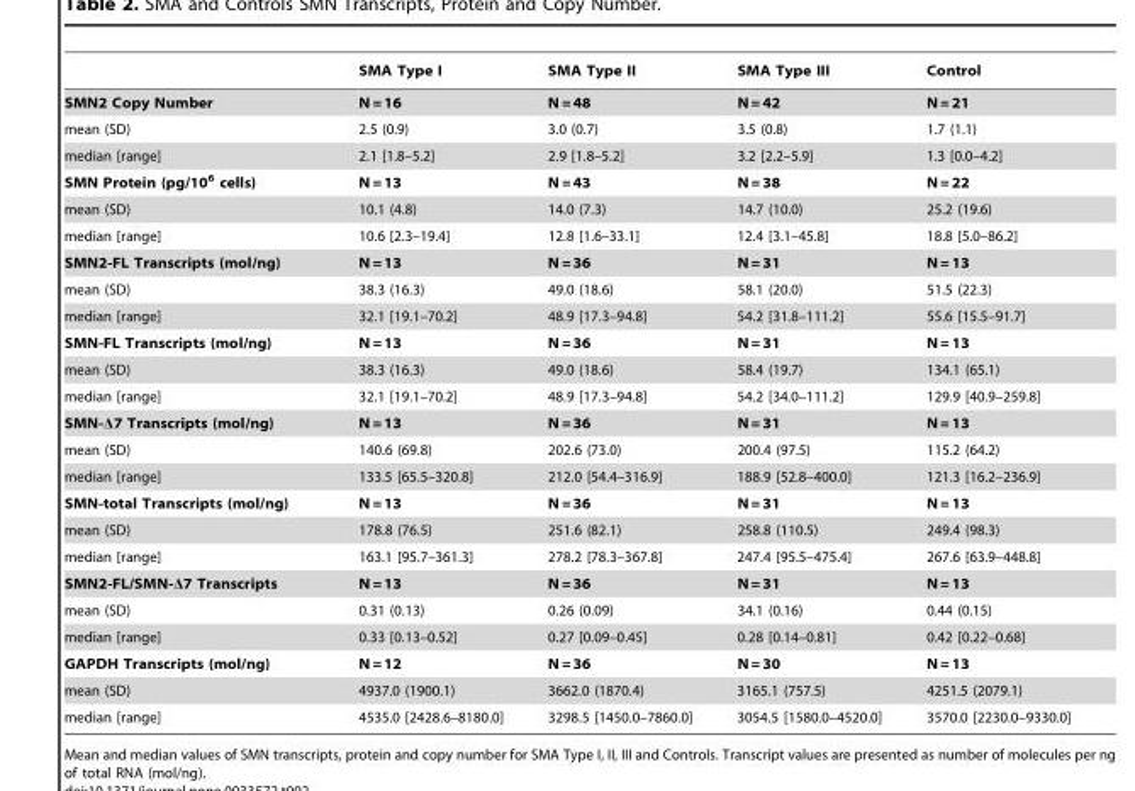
<table><thead><tr><td></td><td>SMA Type I</td><td>SMA Type II</td><td>SMA Type III</td><td>Control</td></tr></thead><tbody><tr><td>SMN2 Copy Number</td><td>N = 16</td><td>N = 48</td><td>N = 42</td><td>N = 21</td></tr><tr><td>mean (SD)</td><td>2.5 (0.9)</td><td>3.0 (0.7)</td><td>3.5 (0.8)</td><td>1.7 (1.1)</td></tr><tr><td>median [range]</td><td>2.1 [1.8–5.2]</td><td>2.9 [1.8–5.2]</td><td>3.2 [2.2–5.9]</td><td>1.3 [0.0–4.2]</td></tr><tr><td>SMN Protein (pg/10<sup>6</sup> cells)</td><td>N = 13</td><td>N = 43</td><td>N = 38</td><td>N = 22</td></tr><tr><td>mean (SD)</td><td>10.1 (4.8)</td><td>14.0 (7.3)</td><td>14.7 (10.0)</td><td>25.2 (19.6)</td></tr><tr><td>median [range]</td><td>10.6 [2.3–19.4]</td><td>12.8 [1.6–33.1]</td><td>12.4 [3.1–45.8]</td><td>18.8 [5.0–86.2]</td></tr><tr><td>SMN2-FL Transcripts (mol/ng)</td><td>N = 13</td><td>N = 36</td><td>N = 31</td><td>N = 13</td></tr><tr><td>mean (SD)</td><td>38.3 (16.3)</td><td>49.0 (18.6)</td><td>58.1 (20.0)</td><td>51.5 (22.3)</td></tr><tr><td>median [range]</td><td>32.1 [19.1–70.2]</td><td>48.9 [17.3–94.8]</td><td>54.2 [31.8–111.2]</td><td>55.6 [15.5–91.7]</td></tr><tr><td>SMN-FL Transcripts (mol/ng)</td><td>N = 13</td><td>N = 36</td><td>N = 31</td><td>N = 13</td></tr><tr><td>mean (SD)</td><td>38.3 (16.3)</td><td>49.0 (18.6)</td><td>58.4 (19.7)</td><td>134.1 (65.1)</td></tr><tr><td>median [range]</td><td>32.1 [19.1–70.2]</td><td>48.9 [17.3–94.8]</td><td>54.2 [34.0–111.2]</td><td>129.9 [40.9–259.8]</td></tr><tr><td>SMN-Δ7 Transcripts (mol/ng)</td><td>N = 13</td><td>N = 36</td><td>N = 31</td><td>N = 13</td></tr><tr><td>mean (SD)</td><td>140.6 (69.8)</td><td>202.6 (73.0)</td><td>200.4 (97.5)</td><td>115.2 (64.2)</td></tr><tr><td>median [range]</td><td>133.5 [65.5–320.8]</td><td>212.0 [54.4–316.9]</td><td>188.9 [52.8–400.0]</td><td>121.3 [16.2–236.9]</td></tr><tr><td>SMN-total Transcripts (mol/ng)</td><td>N = 13</td><td>N = 36</td><td>N = 31</td><td>N = 13</td></tr><tr><td>mean (SD)</td><td>178.8 (76.5)</td><td>251.6 (82.1)</td><td>258.8 (110.5)</td><td>249.4 (98.3)</td></tr><tr><td>median [range]</td><td>163.1 [95.7–361.3]</td><td>278.2 [78.3–367.8]</td><td>247.4 [95.5–475.4]</td><td>267.6 [63.9–448.8]</td></tr><tr><td>SMN2-FL/SMN-Δ7 Transcripts</td><td>N = 13</td><td>N = 36</td><td>N = 31</td><td>N = 13</td></tr><tr><td>mean (SD)</td><td>0.31 (0.13)</td><td>0.26 (0.09)</td><td>34.1 (0.16)</td><td>0.44 (0.15)</td></tr><tr><td>median [range]</td><td>0.33 [0.13–0.52]</td><td>0.27 [0.09–0.45]</td><td>0.28 [0.14–0.81]</td><td>0.42 [0.22–0.68]</td></tr><tr><td>GAPDH Transcripts (mol/ng)</td><td>N = 12</td><td>N = 36</td><td>N = 30</td><td>N = 13</td></tr><tr><td>mean (SD)</td><td>4937.0 (1900.1)</td><td>3662.0 (1870.4)</td><td>3165.1 (757.5)</td><td>4251.5 (2079.1)</td></tr><tr><td>median [range]</td><td>4535.0 [2428.6–8180.0]</td><td>3298.5 [1450.0–7860.0]</td><td>3054.5 [1580.0–4520.0]</td><td>3570.0 [2230.0–9330.0]</td></tr></tbody></table>